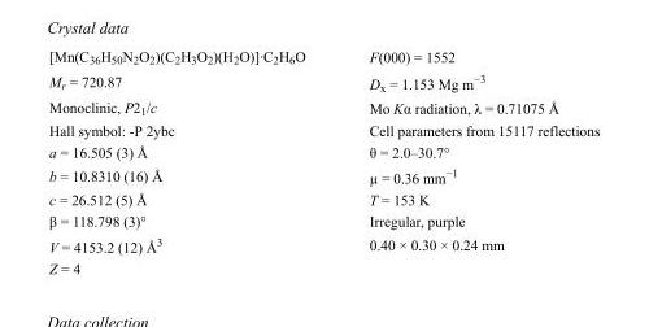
<table><tbody><tr><td>[Mn(C<sub>36</sub>H<sub>50</sub>N<sub>2</sub>O<sub>2</sub>)(C<sub>2</sub>H<sub>3</sub>O<sub>2</sub>)(H<sub>2</sub>O)]·C<sub>2</sub>H<sub>6</sub>O</td><td>F(000) = 1552</td></tr><tr><td>M<sub>r</sub> = 720.87</td><td>D<sub>x</sub> = 1.153 Mg m<sup>−3</sup></td></tr><tr><td>Monoclinic, P2<sub>1</sub>/c</td><td>Mo Kα radiation, λ = 0.71075 Å</td></tr><tr><td>Hall symbol: -P 2ybc</td><td>Cell parameters from 15117 reflections</td></tr><tr><td>a = 16.505 (3) Å</td><td>θ = 2.0–30.7°</td></tr><tr><td>b = 10.8310 (16) Å</td><td>µ = 0.36 mm<sup>−1</sup></td></tr><tr><td>c = 26.512 (5) Å</td><td>T = 153 K</td></tr><tr><td>β = 118.798 (3)°</td><td>Irregular, purple</td></tr><tr><td>V = 4153.2 (12) Å<sup>3</sup></td><td>0.40 × 0.30 × 0.24 mm</td></tr><tr><td>Z = 4</td><td></td></tr></tbody></table>